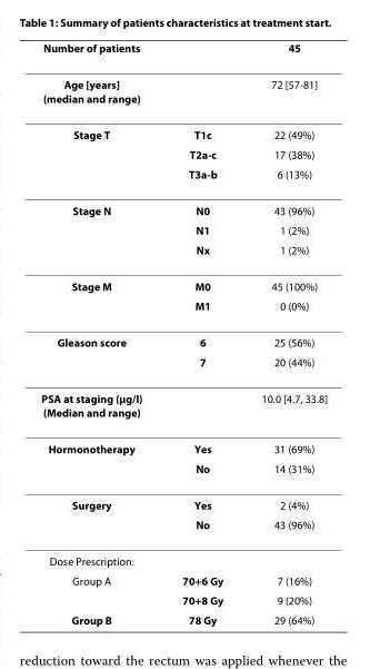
<table><thead><tr><td>Number of patients</td><td></td><td>45</td></tr></thead><tbody><tr><td>Age [years] (median and range)</td><td></td><td>72 [57-81]</td></tr><tr><td rowspan="3">Stage T</td><td>T1c</td><td>22 (49%)</td></tr><tr><td>T2a-c</td><td>17 (38%)</td></tr><tr><td>T3a-b</td><td>6 (13%)</td></tr><tr><td rowspan="3">Stage N</td><td>N0</td><td>43 (96%)</td></tr><tr><td>N1</td><td>1 (2%)</td></tr><tr><td>Nx</td><td>1 (2%)</td></tr><tr><td rowspan="2">Stage M</td><td>M0</td><td>45 (100%)</td></tr><tr><td>M1</td><td>0 (0%)</td></tr><tr><td rowspan="2">Gleason score</td><td>6</td><td>25 (56%)</td></tr><tr><td>7</td><td>20 (44%)</td></tr><tr><td>PSA at staging (μg/l) (Median and range)</td><td></td><td>10.0 [4.7, 33.8]</td></tr><tr><td rowspan="2">Hormonotherapy</td><td>Yes</td><td>31 (69%)</td></tr><tr><td>No</td><td>14 (31%)</td></tr><tr><td rowspan="2">Surgery</td><td>Yes</td><td>2 (4%)</td></tr><tr><td>No</td><td>43 (96%)</td></tr><tr><td colspan="3">Dose Prescription:</td></tr><tr><td rowspan="2">Group A</td><td>70+6 Gy</td><td>7 (16%)</td></tr><tr><td>70+8 Gy</td><td>9 (20%)</td></tr><tr><td>Group B</td><td>78 Gy</td><td>29 (64%)</td></tr></tbody></table>